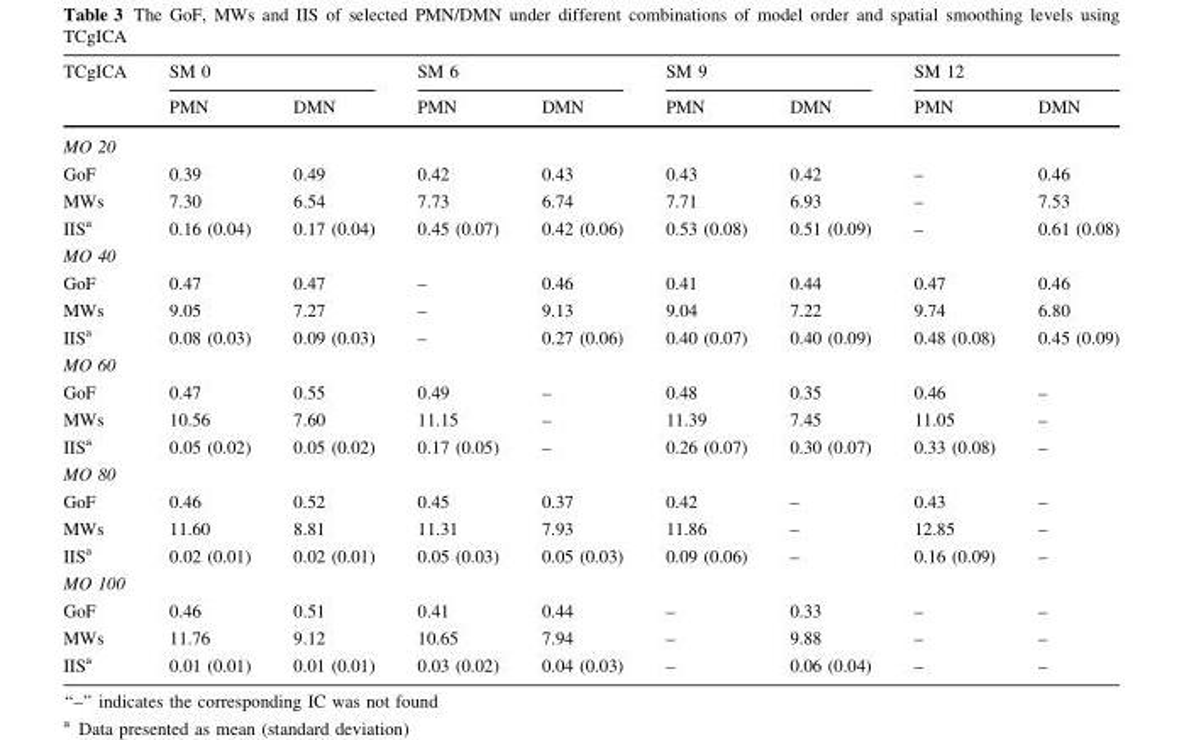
<table><thead><tr><td rowspan="2">TCgICA</td><td colspan="2">SM 0</td><td colspan="2">SM 6</td><td colspan="2">SM 9</td><td colspan="2">SM 12</td></tr><tr><td>PMN</td><td>DMN</td><td>PMN</td><td>DMN</td><td>PMN</td><td>DMN</td><td>PMN</td><td>DMN</td></tr></thead><tbody><tr><td colspan="9">MO 20</td></tr><tr><td>GoF</td><td>0.39</td><td>0.49</td><td>0.42</td><td>0.43</td><td>0.43</td><td>0.42</td><td>–</td><td>0.46</td></tr><tr><td>MWs</td><td>7.30</td><td>6.54</td><td>7.73</td><td>6.74</td><td>7.71</td><td>6.93</td><td>–</td><td>7.53</td></tr><tr><td>IIS<sup>a</sup></td><td>0.16 (0.04)</td><td>0.17 (0.04)</td><td>0.45 (0.07)</td><td>0.42 (0.06)</td><td>0.53 (0.08)</td><td>0.51 (0.09)</td><td>–</td><td>0.61 (0.08)</td></tr><tr><td colspan="9">MO 40</td></tr><tr><td>GoF</td><td>0.47</td><td>0.47</td><td>–</td><td>0.46</td><td>0.41</td><td>0.44</td><td>0.47</td><td>0.46</td></tr><tr><td>MWs</td><td>9.05</td><td>7.27</td><td>–</td><td>9.13</td><td>9.04</td><td>7.22</td><td>9.74</td><td>6.80</td></tr><tr><td>IIS<sup>a</sup></td><td>0.08 (0.03)</td><td>0.09 (0.03)</td><td>–</td><td>0.27 (0.06)</td><td>0.40 (0.07)</td><td>0.40 (0.09)</td><td>0.48 (0.08)</td><td>0.45 (0.09)</td></tr><tr><td colspan="9">MO 60</td></tr><tr><td>GoF</td><td>0.47</td><td>0.55</td><td>0.49</td><td>–</td><td>0.48</td><td>0.35</td><td>0.46</td><td>–</td></tr><tr><td>MWs</td><td>10.56</td><td>7.60</td><td>11.15</td><td>–</td><td>11.39</td><td>7.45</td><td>11.05</td><td>–</td></tr><tr><td>IIS<sup>a</sup></td><td>0.05 (0.02)</td><td>0.05 (0.02)</td><td>0.17 (0.05)</td><td>–</td><td>0.26 (0.07)</td><td>0.30 (0.07)</td><td>0.33 (0.08)</td><td>–</td></tr><tr><td colspan="9">MO 80</td></tr><tr><td>GoF</td><td>0.46</td><td>0.52</td><td>0.45</td><td>0.37</td><td>0.42</td><td>–</td><td>0.43</td><td>–</td></tr><tr><td>MWs</td><td>11.60</td><td>8.81</td><td>11.31</td><td>7.93</td><td>11.86</td><td>–</td><td>12.85</td><td>–</td></tr><tr><td>IIS<sup>a</sup></td><td>0.02 (0.01)</td><td>0.02 (0.01)</td><td>0.05 (0.03)</td><td>0.05 (0.03)</td><td>0.09 (0.06)</td><td>–</td><td>0.16 (0.09)</td><td>–</td></tr><tr><td colspan="9">MO 100</td></tr><tr><td>GoF</td><td>0.46</td><td>0.51</td><td>0.41</td><td>0.44</td><td>–</td><td>0.33</td><td>–</td><td>–</td></tr><tr><td>MWs</td><td>11.76</td><td>9.12</td><td>10.65</td><td>7.94</td><td>–</td><td>9.88</td><td>–</td><td>–</td></tr><tr><td>IIS<sup>a</sup></td><td>0.01 (0.01)</td><td>0.01 (0.01)</td><td>0.03 (0.02)</td><td>0.04 (0.03)</td><td>–</td><td>0.06 (0.04)</td><td>–</td><td>–</td></tr></tbody></table>